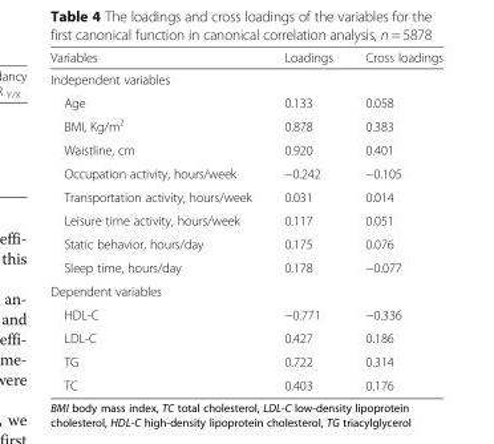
<table><thead><tr><td>Variables</td><td>Loadings</td><td>Cross loadings</td></tr></thead><tbody><tr><td colspan="3">Independent variables</td></tr><tr><td>Age</td><td>0.133</td><td>0.058</td></tr><tr><td>BMI, Kg/m<sup>2</sup></td><td>0.878</td><td>0.383</td></tr><tr><td>Waistline, cm</td><td>0.920</td><td>0.401</td></tr><tr><td>Occupation activity, hours/week</td><td>−0.242</td><td>−0.105</td></tr><tr><td>Transportation activity, hours/week</td><td>0.031</td><td>0.014</td></tr><tr><td>Leisure time activity, hours/week</td><td>0.117</td><td>0.051</td></tr><tr><td>Static behavior, hours/day</td><td>0.175</td><td>0.076</td></tr><tr><td>Sleep time, hours/day</td><td>0.178</td><td>−0.077</td></tr><tr><td colspan="3">Dependent variables</td></tr><tr><td>HDL-C</td><td>−0.771</td><td>−0.336</td></tr><tr><td>LDL-C</td><td>0.427</td><td>0.186</td></tr><tr><td>TG</td><td>0.722</td><td>0.314</td></tr><tr><td>TC</td><td>0.403</td><td>0.176</td></tr></tbody></table>